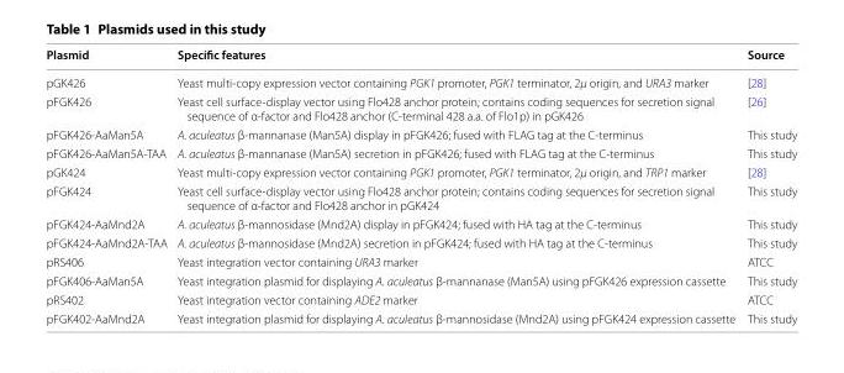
<table><thead><tr><td>Plasmid</td><td>Specific features</td><td>Source</td></tr></thead><tbody><tr><td>pGK426</td><td>Yeast multi‑copy expression vector containing PGK1 promoter, PGK1 terminator, 2μ origin, and URA3 marker</td><td>[28]</td></tr><tr><td>pFGK426</td><td>Yeast cell surface‑display vector using Flo428 anchor protein; contains coding sequences for secretion signal sequence of α‑factor and Flo428 anchor (C‑terminal 428 a.a. of Flo1p) in pGK426</td><td>[26]</td></tr><tr><td>pFGK426‑AaMan5A</td><td>A. aculeatus β‑mannanase (Man5A) display in pFGK426; fused with FLAG tag at the C‑terminus</td><td>This study</td></tr><tr><td>pFGK426‑AaMan5A‑TAA</td><td>A. aculeatus β‑mannanase (Man5A) secretion in pFGK426; fused with FLAG tag at the C‑terminus</td><td>This study</td></tr><tr><td>pGK424</td><td>Yeast multi‑copy expression vector containing PGK1 promoter, PGK1 terminator, 2μ origin, and TRP1 marker</td><td>[28]</td></tr><tr><td>pFGK424</td><td>Yeast cell surface‑display vector using Flo428 anchor protein; contains coding sequences for secretion signal sequence of α‑factor and Flo428 anchor in pGK424</td><td>This study</td></tr><tr><td>pFGK424‑AaMnd2A</td><td>A. aculeatus β‑mannosidase (Mnd2A) display in pFGK424; fused with HA tag at the C‑terminus</td><td>This study</td></tr><tr><td>pFGK424‑AaMnd2A‑TAA</td><td>A. aculeatus β‑mannosidase (Mnd2A) secretion in pFGK424; fused with HA tag at the C‑terminus</td><td>This study</td></tr><tr><td>pRS406</td><td>Yeast integration vector containing URA3 marker</td><td>ATCC</td></tr><tr><td>pFGK406‑AaMan5A</td><td>Yeast integration plasmid for displaying A. aculeatus β‑mannanase (Man5A) using pFGK426 expression cassette</td><td>This study</td></tr><tr><td>pRS402</td><td>Yeast integration vector containing ADE2 marker</td><td>ATCC</td></tr><tr><td>pFGK402‑AaMnd2A</td><td>Yeast integration plasmid for displaying A. aculeatus β‑mannosidase (Mnd2A) using pFGK424 expression cassette</td><td>This study</td></tr></tbody></table>